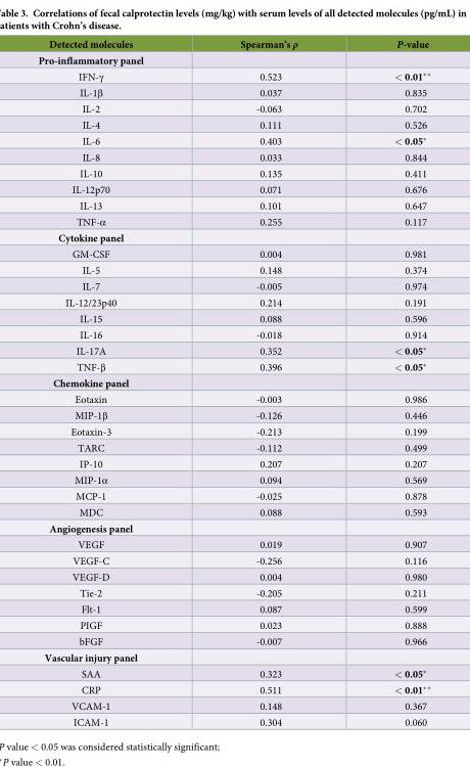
<table><thead><tr><td>Detected molecules</td><td>Spearman’s ρ</td><td>P-value</td></tr></thead><tbody><tr><td colspan="3">Pro-inflammatory panel</td></tr><tr><td>IFN-γ</td><td>0.523</td><td>&lt; 0.01**</td></tr><tr><td>IL-1β</td><td>0.037</td><td>0.835</td></tr><tr><td>IL-2</td><td>-0.063</td><td>0.702</td></tr><tr><td>IL-4</td><td>0.111</td><td>0.526</td></tr><tr><td>IL-6</td><td>0.403</td><td>&lt; 0.05*</td></tr><tr><td>IL-8</td><td>0.033</td><td>0.844</td></tr><tr><td>IL-10</td><td>0.135</td><td>0.411</td></tr><tr><td>IL-12p70</td><td>0.071</td><td>0.676</td></tr><tr><td>IL-13</td><td>0.101</td><td>0.647</td></tr><tr><td>TNF-α</td><td>0.255</td><td>0.117</td></tr><tr><td colspan="3">Cytokine panel</td></tr><tr><td>GM-CSF</td><td>0.004</td><td>0.981</td></tr><tr><td>IL-5</td><td>0.148</td><td>0.374</td></tr><tr><td>IL-7</td><td>-0.005</td><td>0.974</td></tr><tr><td>IL-12/23p40</td><td>0.214</td><td>0.191</td></tr><tr><td>IL-15</td><td>0.088</td><td>0.596</td></tr><tr><td>IL-16</td><td>-0.018</td><td>0.914</td></tr><tr><td>IL-17A</td><td>0.352</td><td>&lt; 0.05*</td></tr><tr><td>TNF-β</td><td>0.396</td><td>&lt; 0.05*</td></tr><tr><td colspan="3">Chemokine panel</td></tr><tr><td>Eotaxin</td><td>-0.003</td><td>0.986</td></tr><tr><td>MIP-1β</td><td>-0.126</td><td>0.446</td></tr><tr><td>Eotaxin-3</td><td>-0.213</td><td>0.199</td></tr><tr><td>TARC</td><td>-0.112</td><td>0.499</td></tr><tr><td>IP-10</td><td>0.207</td><td>0.207</td></tr><tr><td>MIP-1α</td><td>0.094</td><td>0.569</td></tr><tr><td>MCP-1</td><td>-0.025</td><td>0.878</td></tr><tr><td>MDC</td><td>0.088</td><td>0.593</td></tr><tr><td colspan="3">Angiogenesis panel</td></tr><tr><td>VEGF</td><td>0.019</td><td>0.907</td></tr><tr><td>VEGF-C</td><td>-0.256</td><td>0.116</td></tr><tr><td>VEGF-D</td><td>0.004</td><td>0.980</td></tr><tr><td>Tie-2</td><td>-0.205</td><td>0.211</td></tr><tr><td>Flt-1</td><td>0.087</td><td>0.599</td></tr><tr><td>PIGF</td><td>0.023</td><td>0.888</td></tr><tr><td>bFGF</td><td>-0.007</td><td>0.966</td></tr><tr><td colspan="3">Vascular injury panel</td></tr><tr><td>SAA</td><td>0.323</td><td>&lt; 0.05*</td></tr><tr><td>CRP</td><td>0.511</td><td>&lt; 0.01**</td></tr><tr><td>VCAM-1</td><td>0.148</td><td>0.367</td></tr><tr><td>ICAM-1</td><td>0.304</td><td>0.060</td></tr></tbody></table>